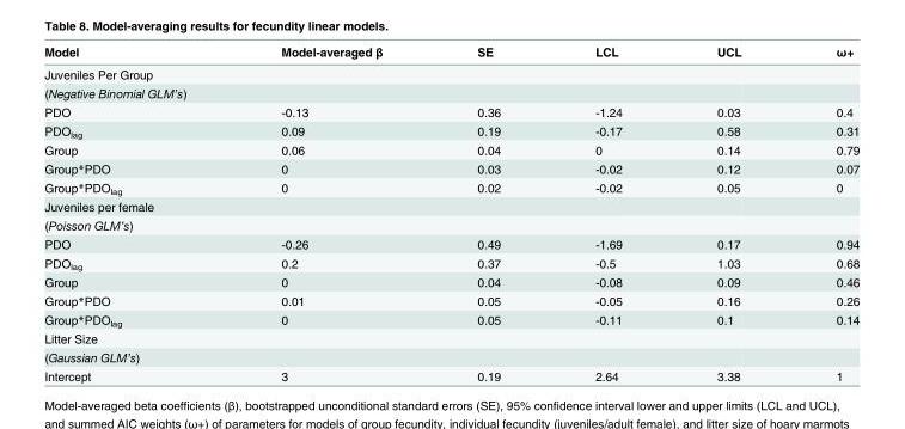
<table><thead><tr><td>Model</td><td>Model-averaged β</td><td>SE</td><td>LCL</td><td>UCL</td><td>ω+</td></tr></thead><tbody><tr><td colspan="6">Juveniles Per Group</td></tr><tr><td colspan="6">(Negative Binomial GLM’s)</td></tr><tr><td>PDO</td><td>-0.13</td><td>0.36</td><td>-1.24</td><td>0.03</td><td>0.4</td></tr><tr><td>PDO<sub>lag</sub></td><td>0.09</td><td>0.19</td><td>-0.17</td><td>0.58</td><td>0.31</td></tr><tr><td>Group</td><td>0.06</td><td>0.04</td><td>0</td><td>0.14</td><td>0.79</td></tr><tr><td>Group*PDO</td><td>0</td><td>0.03</td><td>-0.02</td><td>0.12</td><td>0.07</td></tr><tr><td>Group*PDO<sub>lag</sub></td><td>0</td><td>0.02</td><td>-0.02</td><td>0.05</td><td>0</td></tr><tr><td colspan="6">Juveniles per female</td></tr><tr><td colspan="6">(Poisson GLM’s)</td></tr><tr><td>PDO</td><td>-0.26</td><td>0.49</td><td>-1.69</td><td>0.17</td><td>0.94</td></tr><tr><td>PDO<sub>lag</sub></td><td>0.2</td><td>0.37</td><td>-0.5</td><td>1.03</td><td>0.68</td></tr><tr><td>Group</td><td>0</td><td>0.04</td><td>-0.08</td><td>0.09</td><td>0.46</td></tr><tr><td>Group*PDO</td><td>0.01</td><td>0.05</td><td>-0.05</td><td>0.16</td><td>0.26</td></tr><tr><td>Group*PDO<sub>lag</sub></td><td>0</td><td>0.05</td><td>-0.11</td><td>0.1</td><td>0.14</td></tr><tr><td colspan="6">Litter Size</td></tr><tr><td colspan="6">(Gaussian GLM’s)</td></tr><tr><td>Intercept</td><td>3</td><td>0.19</td><td>2.64</td><td>3.38</td><td>1</td></tr></tbody></table>